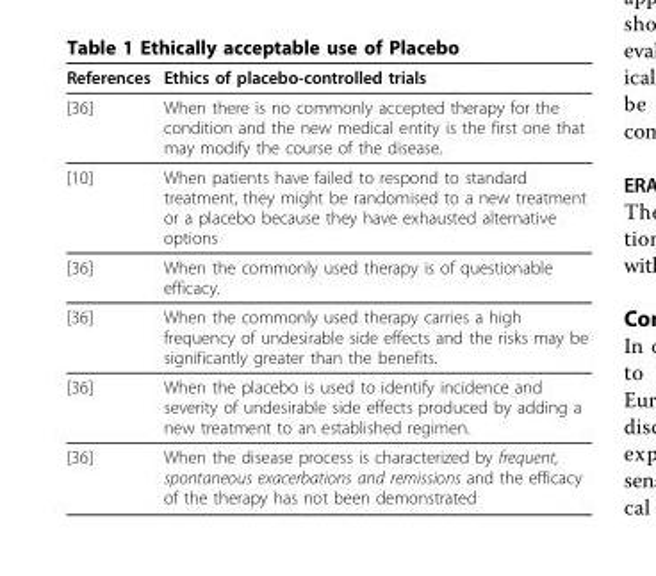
<table><thead><tr><td>References</td><td>Ethics of placebo-controlled trials</td></tr></thead><tbody><tr><td>[36]</td><td>When there is no commonly accepted therapy for the condition and the new medical entity is the first one that may modify the course of the disease.</td></tr><tr><td>[10]</td><td>When patients have failed to respond to standard treatment, they might be randomised to a new treatment or a placebo because they have exhausted alternative options</td></tr><tr><td>[36]</td><td>When the commonly used therapy is of questionable efficacy.</td></tr><tr><td>[36]</td><td>When the commonly used therapy carries a high frequency of undesirable side effects and the risks may be significantly greater than the benefits.</td></tr><tr><td>[36]</td><td>When the placebo is used to identify incidence and severity of undesirable side effects produced by adding a new treatment to an established regimen.</td></tr><tr><td>[36]</td><td>When the disease process is characterized by frequent, spontaneous exacerbations and remissions and the efficacy of the therapy has not been demonstrated</td></tr></tbody></table>